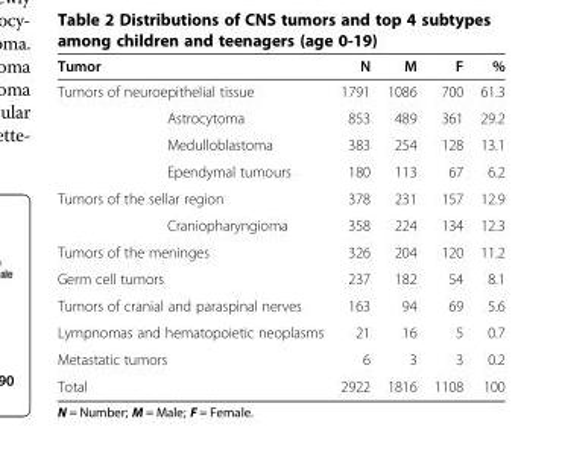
<table><thead><tr><td>Tumor</td><td>N</td><td>M</td><td>F</td><td>%</td></tr></thead><tbody><tr><td>Tumors of neuroepithelial tissue</td><td>1791</td><td>1086</td><td>700</td><td>61.3</td></tr><tr><td>Astrocytoma</td><td>853</td><td>489</td><td>361</td><td>29.2</td></tr><tr><td>Medulloblastoma</td><td>383</td><td>254</td><td>128</td><td>13.1</td></tr><tr><td>Ependymal tumours</td><td>180</td><td>113</td><td>67</td><td>6.2</td></tr><tr><td>Tumors of the sellar region</td><td>378</td><td>231</td><td>157</td><td>12.9</td></tr><tr><td>Craniopharyngioma</td><td>358</td><td>224</td><td>134</td><td>12.3</td></tr><tr><td>Tumors of the meninges</td><td>326</td><td>204</td><td>120</td><td>11.2</td></tr><tr><td>Germ cell tumors</td><td>237</td><td>182</td><td>54</td><td>8.1</td></tr><tr><td>Tumors of cranial and paraspinal nerves</td><td>163</td><td>94</td><td>69</td><td>5.6</td></tr><tr><td>Lympnomas and hematopoietic neoplasms</td><td>21</td><td>16</td><td>5</td><td>0.7</td></tr><tr><td>Metastatic tumors</td><td>6</td><td>3</td><td>3</td><td>0.2</td></tr><tr><td>Total</td><td>2922</td><td>1816</td><td>1108</td><td>100</td></tr></tbody></table>